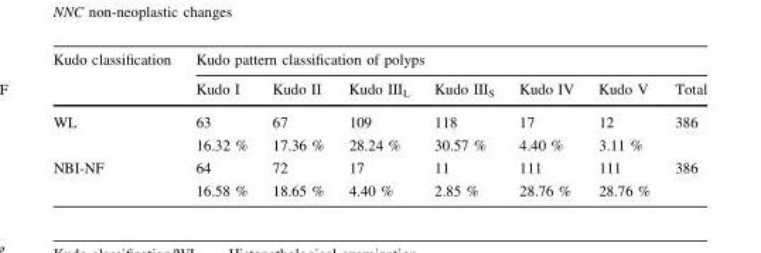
<table><thead><tr><td rowspan="2">Kudo classification</td><td colspan="7">Kudo pattern classification of polyps</td></tr><tr><td>Kudo I</td><td>Kudo II</td><td>Kudo III<sub>L</sub></td><td>Kudo III<sub>S</sub></td><td>Kudo IV</td><td>Kudo V</td><td>Total</td></tr></thead><tbody><tr><td rowspan="2">WL</td><td>63</td><td>67</td><td>109</td><td>118</td><td>17</td><td>12</td><td rowspan="2">386</td></tr><tr><td>16.32 %</td><td>17.36 %</td><td>28.24 %</td><td>30.57 %</td><td>4.40 %</td><td>3.11 %</td></tr><tr><td rowspan="2">NBI-NF</td><td>64</td><td>72</td><td>17</td><td>11</td><td>111</td><td>111</td><td rowspan="2">386</td></tr><tr><td>16.58 %</td><td>18.65 %</td><td>4.40 %</td><td>2.85 %</td><td>28.76 %</td><td>28.76 %</td></tr></tbody></table>